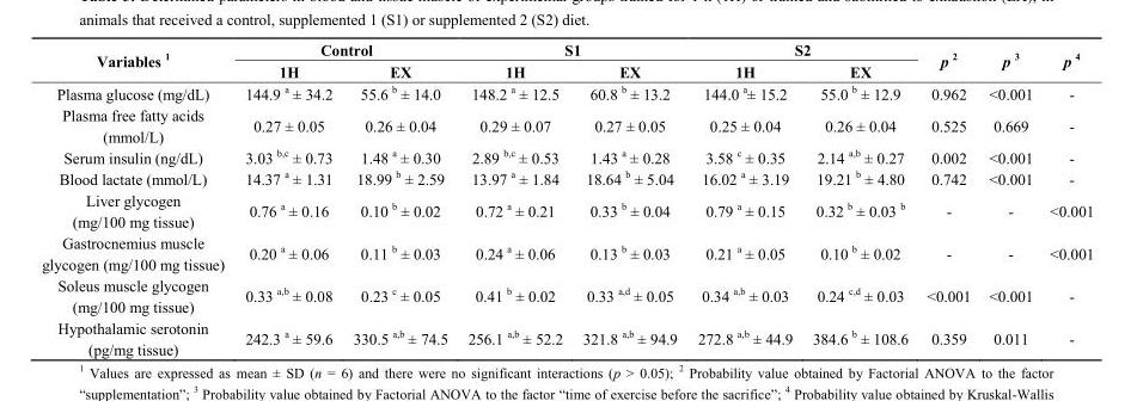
<table><thead><tr><td rowspan="2">Variables <sup>1</sup></td><td colspan="2">Control</td><td colspan="2">S1</td><td colspan="2">S2</td><td rowspan="2">p <sup>2</sup></td><td rowspan="2">p <sup>3</sup></td><td rowspan="2">p <sup>4</sup></td></tr><tr><td>1H</td><td>EX</td><td>1H</td><td>EX</td><td>1H</td><td>EX</td></tr></thead><tbody><tr><td>Plasma glucose (mg/dL)</td><td>144.9 <sup>a</sup> ± 34.2</td><td>55.6 <sup>b</sup> ± 14.0</td><td>148.2 <sup>a</sup> ± 12.5</td><td>60.8 <sup>b</sup> ± 13.2</td><td>144.0 <sup>a</sup>± 15.2</td><td>55.0 <sup>b</sup> ± 12.9</td><td>0.962</td><td>&lt;0.001</td><td>-</td></tr><tr><td>Plasma free fatty acids (mmol/L)</td><td>0.27 ± 0.05</td><td>0.26 ± 0.04</td><td>0.29 ± 0.07</td><td>0.27 ± 0.05</td><td>0.25 ± 0.04</td><td>0.26 ± 0.04</td><td>0.525</td><td>0.669</td><td>-</td></tr><tr><td>Serum insulin (ng/dL)</td><td>3.03 <sup>b,c</sup> ± 0.73</td><td>1.48 <sup>a</sup> ± 0.30</td><td>2.89 <sup>b,c</sup> ± 0.53</td><td>1.43 <sup>a</sup> ± 0.28</td><td>3.58 <sup>c</sup> ± 0.35</td><td>2.14 <sup>a,b</sup> ± 0.27</td><td>0.002</td><td>&lt;0.001</td><td>-</td></tr><tr><td>Blood lactate (mmol/L)</td><td>14.37 <sup>a</sup> ± 1.31</td><td>18.99 <sup>b</sup> ± 2.59</td><td>13.97 <sup>a</sup> ± 1.84</td><td>18.64 <sup>b</sup> ± 5.04</td><td>16.02 <sup>a</sup> ± 3.19</td><td>19.21 <sup>b</sup> ± 4.80</td><td>0.742</td><td>&lt;0.001</td><td>-</td></tr><tr><td>Liver glycogen (mg/100 mg tissue)</td><td>0.76 <sup>a</sup> ± 0.16</td><td>0.10 <sup>b</sup> ± 0.02</td><td>0.72 <sup>a</sup> ± 0.21</td><td>0.33 <sup>b</sup> ± 0.04</td><td>0.79 <sup>a</sup> ± 0.15</td><td>0.32 <sup>b</sup> ± 0.03 <sup>b</sup></td><td>-</td><td>-</td><td>&lt;0.001</td></tr><tr><td>Gastrocnemius muscle glycogen (mg/100 mg tissue)</td><td>0.20 <sup>a</sup> ± 0.06</td><td>0.11 <sup>b</sup> ± 0.03</td><td>0.24 <sup>a</sup> ± 0.06</td><td>0.13 <sup>b</sup> ± 0.03</td><td>0.21 <sup>a</sup> ± 0.05</td><td>0.10 <sup>b</sup> ± 0.02</td><td>-</td><td>-</td><td>&lt;0.001</td></tr><tr><td>Soleus muscle glycogen (mg/100 mg tissue)</td><td>0.33 <sup>a,b</sup> ± 0.08</td><td>0.23 <sup>c</sup> ± 0.05</td><td>0.41 <sup>b</sup> ± 0.02</td><td>0.33 <sup>a,d</sup> ± 0.05</td><td>0.34 <sup>a,b</sup> ± 0.03</td><td>0.24 <sup>c,d</sup> ± 0.03</td><td>&lt;0.001</td><td>&lt;0.001</td><td>-</td></tr><tr><td>Hypothalamic serotonin (pg/mg tissue)</td><td>242.3 <sup>a</sup> ± 59.6</td><td>330.5 <sup>a,b</sup> ± 74.5</td><td>256.1 <sup>a,b</sup> ± 52.2</td><td>321.8 <sup>a,b</sup> ± 94.9</td><td>272.8 <sup>a,b</sup> ± 44.9</td><td>384.6 <sup>b</sup> ± 108.6</td><td>0.359</td><td>0.011</td><td>-</td></tr></tbody></table>